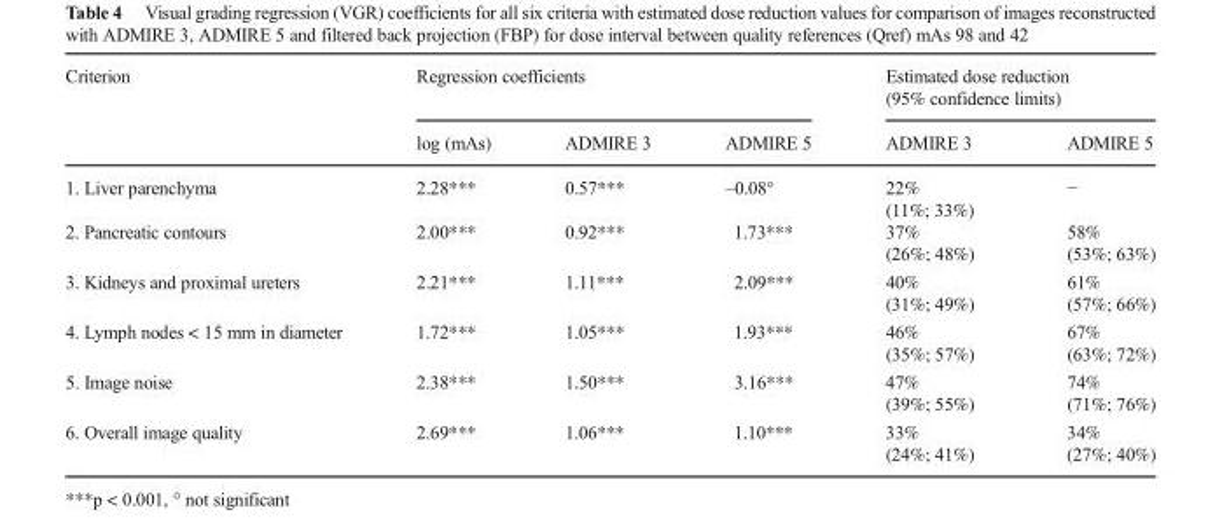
<table><thead><tr><td rowspan="2">Criterion</td><td colspan="3">Regression coefficients</td><td colspan="2">Estimated dose reduction (95% confidence limits)</td></tr><tr><td>log (mAs)</td><td>ADMIRE 3</td><td>ADMIRE 5</td><td>ADMIRE 3</td><td>ADMIRE 5</td></tr></thead><tbody><tr><td>1. Liver parenchyma</td><td>2.28***</td><td>0.57***</td><td>–0.08°</td><td>22% (11%; 33%)</td><td>−</td></tr><tr><td>2. Pancreatic contours</td><td>2.00***</td><td>0.92***</td><td>1.73***</td><td>37% (26%; 48%)</td><td>58% (53%; 63%)</td></tr><tr><td>3. Kidneys and proximal ureters</td><td>2.21***</td><td>1.11***</td><td>2.09***</td><td>40% (31%; 49%)</td><td>61% (57%; 66%)</td></tr><tr><td>4. Lymph nodes &lt; 15 mm in diameter</td><td>1.72***</td><td>1.05***</td><td>1.93***</td><td>46% (35%; 57%)</td><td>67% (63%; 72%)</td></tr><tr><td>5. Image noise</td><td>2.38***</td><td>1.50***</td><td>3.16***</td><td>47% (39%; 55%)</td><td>74% (71%; 76%)</td></tr><tr><td>6. Overall image quality</td><td>2.69***</td><td>1.06***</td><td>1.10***</td><td>33% (24%; 41%)</td><td>34% (27%; 40%)</td></tr></tbody></table>